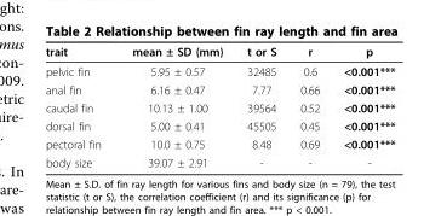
<table><thead><tr><td>trait</td><td>mean ± SD (mm)</td><td>t or S</td><td>r</td><td>p</td></tr></thead><tbody><tr><td>pelvic fin</td><td>5.95 ± 0.57</td><td>32485</td><td>0.6</td><td>&lt;0.001***</td></tr><tr><td>anal fin</td><td>6.16 ± 0.47</td><td>7.77</td><td>0.66</td><td>&lt;0.001***</td></tr><tr><td>caudal fin</td><td>10.13 ± 1.00</td><td>39564</td><td>0.52</td><td>&lt;0.001***</td></tr><tr><td>dorsal fin</td><td>5.00 ± 0.41</td><td>45505</td><td>0.45</td><td>&lt;0.001***</td></tr><tr><td>pectoral fin</td><td>10.0 ± 0.75</td><td>8.48</td><td>0.69</td><td>&lt;0.001***</td></tr><tr><td>body size</td><td>39.07 ± 2.91</td><td>-</td><td>-</td><td>-</td></tr></tbody></table>